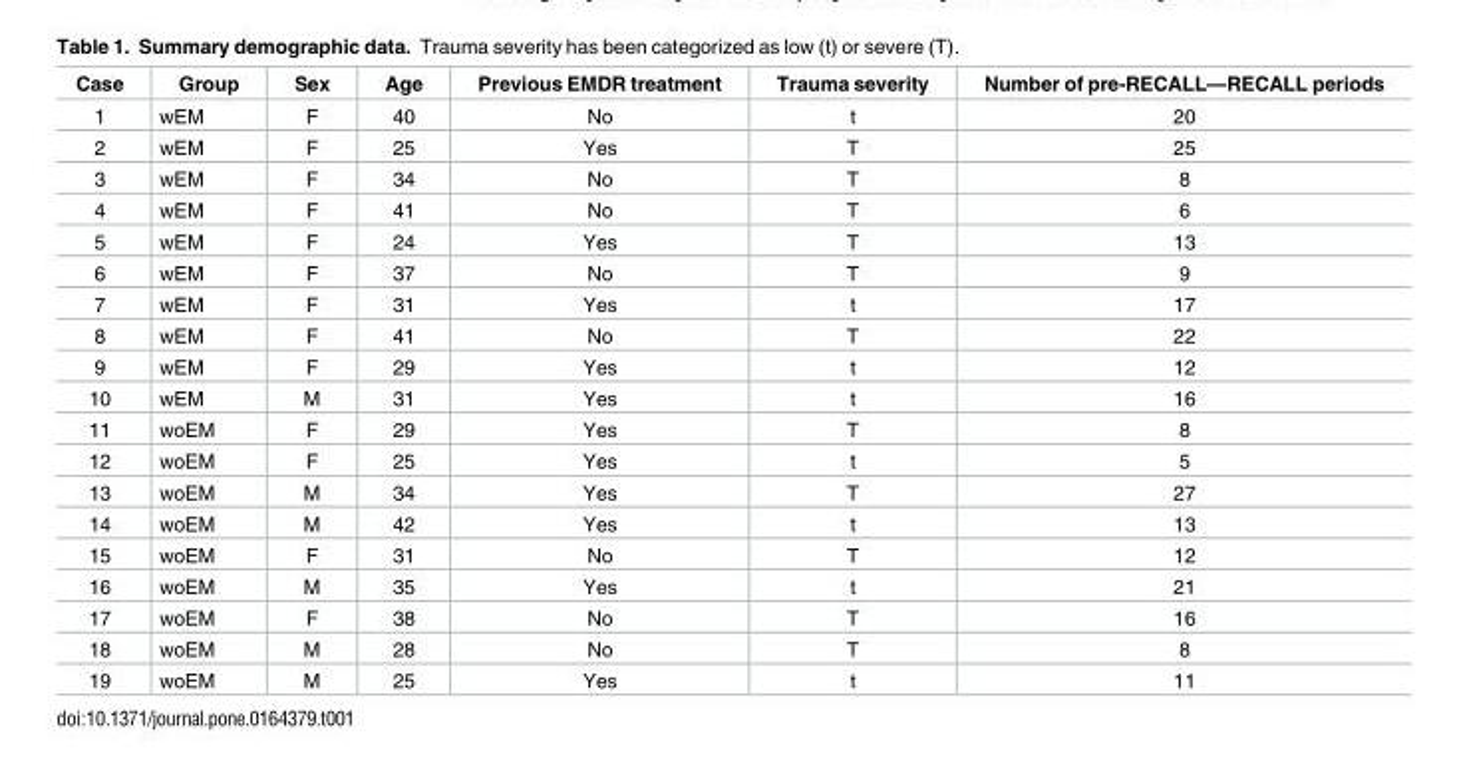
<table><thead><tr><td>Case</td><td>Group</td><td>Sex</td><td>Age</td><td>Previous EMDR treatment</td><td>Trauma severity</td><td>Number of pre-RECALL—RECALL periods</td></tr></thead><tbody><tr><td>1</td><td>wEM</td><td>F</td><td>40</td><td>No</td><td>t</td><td>20</td></tr><tr><td>2</td><td>wEM</td><td>F</td><td>25</td><td>Yes</td><td>T</td><td>25</td></tr><tr><td>3</td><td>wEM</td><td>F</td><td>34</td><td>No</td><td>T</td><td>8</td></tr><tr><td>4</td><td>wEM</td><td>F</td><td>41</td><td>No</td><td>T</td><td>6</td></tr><tr><td>5</td><td>wEM</td><td>F</td><td>24</td><td>Yes</td><td>T</td><td>13</td></tr><tr><td>6</td><td>wEM</td><td>F</td><td>37</td><td>No</td><td>T</td><td>9</td></tr><tr><td>7</td><td>wEM</td><td>F</td><td>31</td><td>Yes</td><td>t</td><td>17</td></tr><tr><td>8</td><td>wEM</td><td>F</td><td>41</td><td>No</td><td>T</td><td>22</td></tr><tr><td>9</td><td>wEM</td><td>F</td><td>29</td><td>Yes</td><td>t</td><td>12</td></tr><tr><td>10</td><td>wEM</td><td>M</td><td>31</td><td>Yes</td><td>t</td><td>16</td></tr><tr><td>11</td><td>woEM</td><td>F</td><td>29</td><td>Yes</td><td>T</td><td>8</td></tr><tr><td>12</td><td>woEM</td><td>F</td><td>25</td><td>Yes</td><td>t</td><td>5</td></tr><tr><td>13</td><td>woEM</td><td>M</td><td>34</td><td>Yes</td><td>T</td><td>27</td></tr><tr><td>14</td><td>woEM</td><td>M</td><td>42</td><td>Yes</td><td>t</td><td>13</td></tr><tr><td>15</td><td>woEM</td><td>F</td><td>31</td><td>No</td><td>T</td><td>12</td></tr><tr><td>16</td><td>woEM</td><td>M</td><td>35</td><td>Yes</td><td>t</td><td>21</td></tr><tr><td>17</td><td>woEM</td><td>F</td><td>38</td><td>No</td><td>T</td><td>16</td></tr><tr><td>18</td><td>woEM</td><td>M</td><td>28</td><td>No</td><td>T</td><td>8</td></tr><tr><td>19</td><td>woEM</td><td>M</td><td>25</td><td>Yes</td><td>t</td><td>11</td></tr></tbody></table>